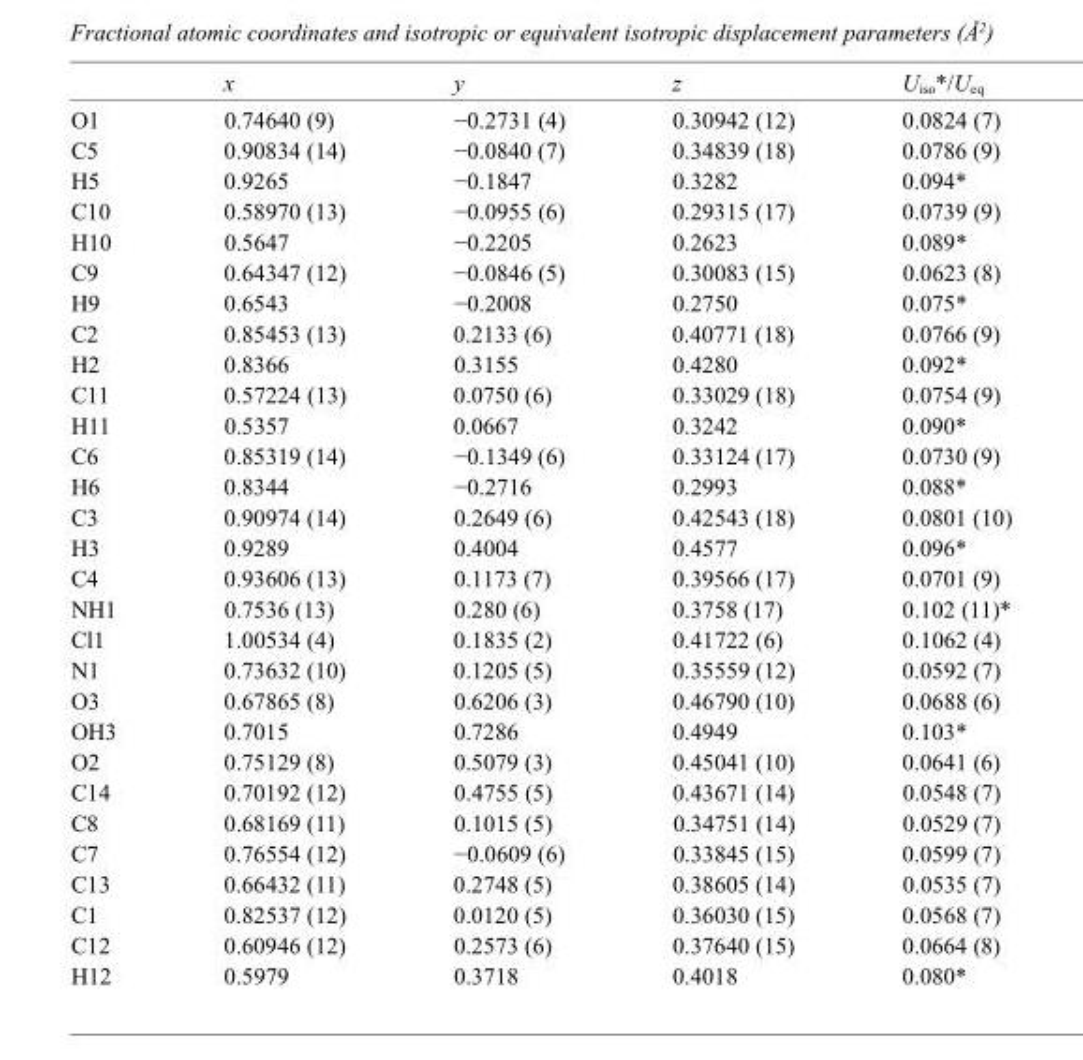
<table><thead><tr><td></td><td>x</td><td>y</td><td>z</td><td>U<sub>iso</sub>*/U<sub>eq</sub></td></tr></thead><tbody><tr><td>O1</td><td>0.74640 (9)</td><td>−0.2731 (4)</td><td>0.30942 (12)</td><td>0.0824 (7)</td></tr><tr><td>C5</td><td>0.90834 (14)</td><td>−0.0840 (7)</td><td>0.34839 (18)</td><td>0.0786 (9)</td></tr><tr><td>H5</td><td>0.9265</td><td>−0.1847</td><td>0.3282</td><td>0.094*</td></tr><tr><td>C10</td><td>0.58970 (13)</td><td>−0.0955 (6)</td><td>0.29315 (17)</td><td>0.0739 (9)</td></tr><tr><td>H10</td><td>0.5647</td><td>−0.2205</td><td>0.2623</td><td>0.089*</td></tr><tr><td>C9</td><td>0.64347 (12)</td><td>−0.0846 (5)</td><td>0.30083 (15)</td><td>0.0623 (8)</td></tr><tr><td>H9</td><td>0.6543</td><td>−0.2008</td><td>0.2750</td><td>0.075*</td></tr><tr><td>C2</td><td>0.85453 (13)</td><td>0.2133 (6)</td><td>0.40771 (18)</td><td>0.0766 (9)</td></tr><tr><td>H2</td><td>0.8366</td><td>0.3155</td><td>0.4280</td><td>0.092*</td></tr><tr><td>C11</td><td>0.57224 (13)</td><td>0.0750 (6)</td><td>0.33029 (18)</td><td>0.0754 (9)</td></tr><tr><td>H11</td><td>0.5357</td><td>0.0667</td><td>0.3242</td><td>0.090*</td></tr><tr><td>C6</td><td>0.85319 (14)</td><td>−0.1349 (6)</td><td>0.33124 (17)</td><td>0.0730 (9)</td></tr><tr><td>H6</td><td>0.8344</td><td>−0.2716</td><td>0.2993</td><td>0.088*</td></tr><tr><td>C3</td><td>0.90974 (14)</td><td>0.2649 (6)</td><td>0.42543 (18)</td><td>0.0801 (10)</td></tr><tr><td>H3</td><td>0.9289</td><td>0.4004</td><td>0.4577</td><td>0.096*</td></tr><tr><td>C4</td><td>0.93606 (13)</td><td>0.1173 (7)</td><td>0.39566 (17)</td><td>0.0701 (9)</td></tr><tr><td>NH1</td><td>0.7536 (13)</td><td>0.280 (6)</td><td>0.3758 (17)</td><td>0.102 (11)*</td></tr><tr><td>Cl1</td><td>1.00534 (4)</td><td>0.1835 (2)</td><td>0.41722 (6)</td><td>0.1062 (4)</td></tr><tr><td>N1</td><td>0.73632 (10)</td><td>0.1205 (5)</td><td>0.35559 (12)</td><td>0.0592 (7)</td></tr><tr><td>O3</td><td>0.67865 (8)</td><td>0.6206 (3)</td><td>0.46790 (10)</td><td>0.0688 (6)</td></tr><tr><td>OH3</td><td>0.7015</td><td>0.7286</td><td>0.4949</td><td>0.103*</td></tr><tr><td>O2</td><td>0.75129 (8)</td><td>0.5079 (3)</td><td>0.45041 (10)</td><td>0.0641 (6)</td></tr><tr><td>C14</td><td>0.70192 (12)</td><td>0.4755 (5)</td><td>0.43671 (14)</td><td>0.0548 (7)</td></tr><tr><td>C8</td><td>0.68169 (11)</td><td>0.1015 (5)</td><td>0.34751 (14)</td><td>0.0529 (7)</td></tr><tr><td>C7</td><td>0.76554 (12)</td><td>−0.0609 (6)</td><td>0.33845 (15)</td><td>0.0599 (7)</td></tr><tr><td>C13</td><td>0.66432 (11)</td><td>0.2748 (5)</td><td>0.38605 (14)</td><td>0.0535 (7)</td></tr><tr><td>C1</td><td>0.82537 (12)</td><td>0.0120 (5)</td><td>0.36030 (15)</td><td>0.0568 (7)</td></tr><tr><td>C12</td><td>0.60946 (12)</td><td>0.2573 (6)</td><td>0.37640 (15)</td><td>0.0664 (8)</td></tr><tr><td>H12</td><td>0.5979</td><td>0.3718</td><td>0.4018</td><td>0.080*</td></tr></tbody></table>